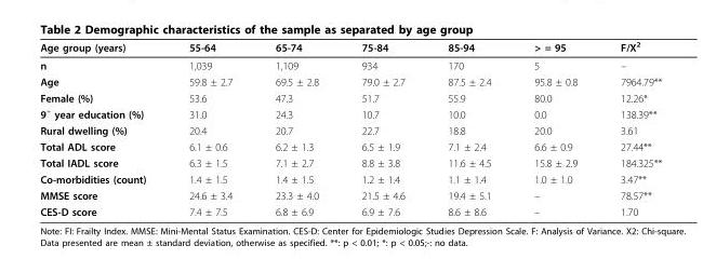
<table><thead><tr><td>Age group (years)</td><td>55-64</td><td>65-74</td><td>75-84</td><td>85-94</td><td>&gt; = 95</td><td>F/X<sup>2</sup></td></tr></thead><tbody><tr><td>n</td><td>1,039</td><td>1,109</td><td>934</td><td>170</td><td>5</td><td>–</td></tr><tr><td>Age</td><td>59.8 ± 2.7</td><td>69.5 ± 2.8</td><td>79.0 ± 2.7</td><td>87.5 ± 2.4</td><td>95.8 ± 0.8</td><td>7964.79**</td></tr><tr><td>Female (%)</td><td>53.6</td><td>47.3</td><td>51.7</td><td>55.9</td><td>80.0</td><td>12.26*</td></tr><tr><td>9<sup>+</sup> year education (%)</td><td>31.0</td><td>24.3</td><td>10.7</td><td>10.0</td><td>0.0</td><td>138.39**</td></tr><tr><td>Rural dwelling (%)</td><td>20.4</td><td>20.7</td><td>22.7</td><td>18.8</td><td>20.0</td><td>3.61</td></tr><tr><td>Total ADL score</td><td>6.1 ± 0.6</td><td>6.2 ± 1.3</td><td>6.5 ± 1.9</td><td>7.1 ± 2.4</td><td>6.6 ± 0.9</td><td>27.44**</td></tr><tr><td>Total IADL score</td><td>6.3 ± 1.5</td><td>7.1 ± 2.7</td><td>8.8 ± 3.8</td><td>11.6 ± 4.5</td><td>15.8 ± 2.9</td><td>184.325**</td></tr><tr><td>Co-morbidities (count)</td><td>1.4 ± 1.5</td><td>1.4 ± 1.5</td><td>1.2 ± 1.4</td><td>1.1 ± 1.4</td><td>1.0 ± 1.0</td><td>3.47**</td></tr><tr><td>MMSE score</td><td>24.6 ± 3.4</td><td>23.3 ± 4.0</td><td>21.5 ± 4.6</td><td>19.4 ± 5.1</td><td>–</td><td>78.57**</td></tr><tr><td>CES-D score</td><td>7.4 ± 7.5</td><td>6.8 ± 6.9</td><td>6.9 ± 7.6</td><td>8.6 ± 8.6</td><td>–</td><td>1.70</td></tr></tbody></table>